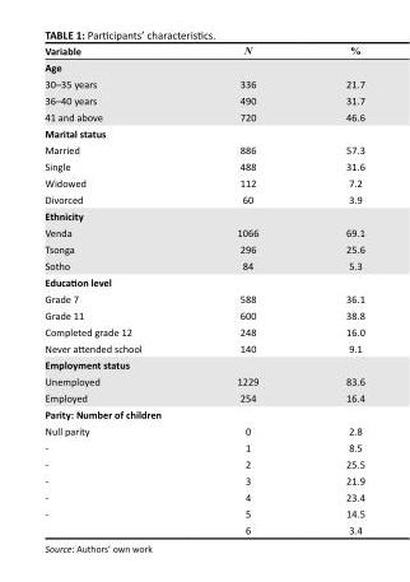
<table><thead><tr><td>Variable</td><td>N</td><td>%</td></tr></thead><tbody><tr><td colspan="3">Age</td></tr><tr><td>30–35 years</td><td>336</td><td>21.7</td></tr><tr><td>36–40 years</td><td>490</td><td>31.7</td></tr><tr><td>41 and above</td><td>720</td><td>46.6</td></tr><tr><td colspan="3">Marital status</td></tr><tr><td>Married</td><td>886</td><td>57.3</td></tr><tr><td>Single</td><td>488</td><td>31.6</td></tr><tr><td>Widowed</td><td>112</td><td>7.2</td></tr><tr><td>Divorced</td><td>60</td><td>3.9</td></tr><tr><td colspan="3">Ethnicity</td></tr><tr><td>Venda</td><td>1066</td><td>69.1</td></tr><tr><td>Tsonga</td><td>296</td><td>25.6</td></tr><tr><td>Sotho</td><td>84</td><td>5.3</td></tr><tr><td colspan="3">Education level</td></tr><tr><td>Grade 7</td><td>588</td><td>36.1</td></tr><tr><td>Grade 11</td><td>600</td><td>38.8</td></tr><tr><td>Completed grade 12</td><td>248</td><td>16.0</td></tr><tr><td>Never attended school</td><td>140</td><td>9.1</td></tr><tr><td colspan="3">Employment status</td></tr><tr><td>Unemployed</td><td>1229</td><td>83.6</td></tr><tr><td>Employed</td><td>254</td><td>16.4</td></tr><tr><td colspan="3">Parity: Number of children</td></tr><tr><td>Null parity</td><td>0</td><td>2.8</td></tr><tr><td>-</td><td>1</td><td>8.5</td></tr><tr><td>-</td><td>2</td><td>25.5</td></tr><tr><td>-</td><td>3</td><td>21.9</td></tr><tr><td>-</td><td>4</td><td>23.4</td></tr><tr><td rowspan="2">-</td><td>5</td><td>14.5</td></tr><tr><td>6</td><td>3.4</td></tr></tbody></table>